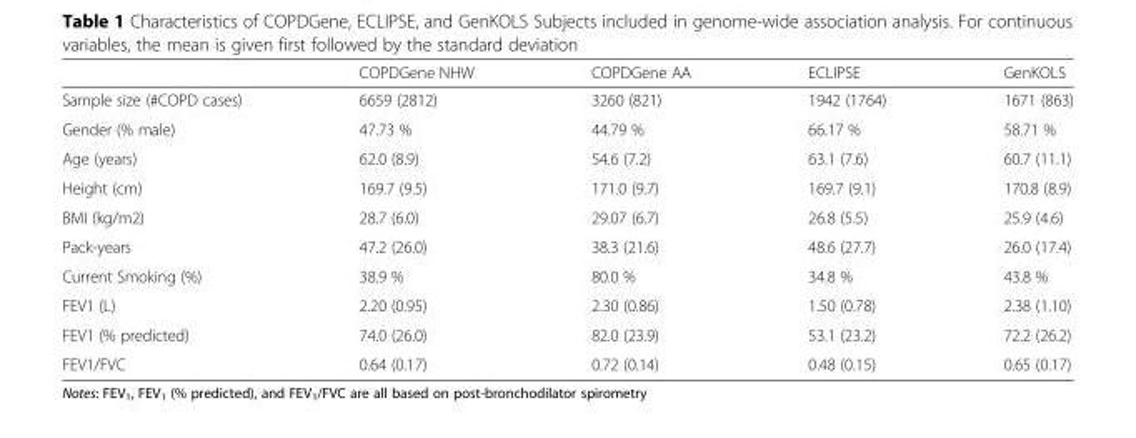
<table><thead><tr><td></td><td>COPDGene NHW</td><td>COPDGene AA</td><td>ECLIPSE</td><td>GenKOLS</td></tr></thead><tbody><tr><td>Sample size (#COPD cases)</td><td>6659 (2812)</td><td>3260 (821)</td><td>1942 (1764)</td><td>1671 (863)</td></tr><tr><td>Gender (% male)</td><td>47.73 %</td><td>44.79 %</td><td>66.17 %</td><td>58.71 %</td></tr><tr><td>Age (years)</td><td>62.0 (8.9)</td><td>54.6 (7.2)</td><td>63.1 (7.6)</td><td>60.7 (11.1)</td></tr><tr><td>Height (cm)</td><td>169.7 (9.5)</td><td>171.0 (9.7)</td><td>169.7 (9.1)</td><td>170.8 (8.9)</td></tr><tr><td>BMI (kg/m2)</td><td>28.7 (6.0)</td><td>29.07 (6.7)</td><td>26.8 (5.5)</td><td>25.9 (4.6)</td></tr><tr><td>Pack-years</td><td>47.2 (26.0)</td><td>38.3 (21.6)</td><td>48.6 (27.7)</td><td>26.0 (17.4)</td></tr><tr><td>Current Smoking (%)</td><td>38.9 %</td><td>80.0 %</td><td>34.8 %</td><td>43.8 %</td></tr><tr><td>FEV1 (L)</td><td>2.20 (0.95)</td><td>2.30 (0.86)</td><td>1.50 (0.78)</td><td>2.38 (1.10)</td></tr><tr><td>FEV1 (% predicted)</td><td>74.0 (26.0)</td><td>82.0 (23.9)</td><td>53.1 (23.2)</td><td>72.2 (26.2)</td></tr><tr><td>FEV1/FVC</td><td>0.64 (0.17)</td><td>0.72 (0.14)</td><td>0.48 (0.15)</td><td>0.65 (0.17)</td></tr></tbody></table>